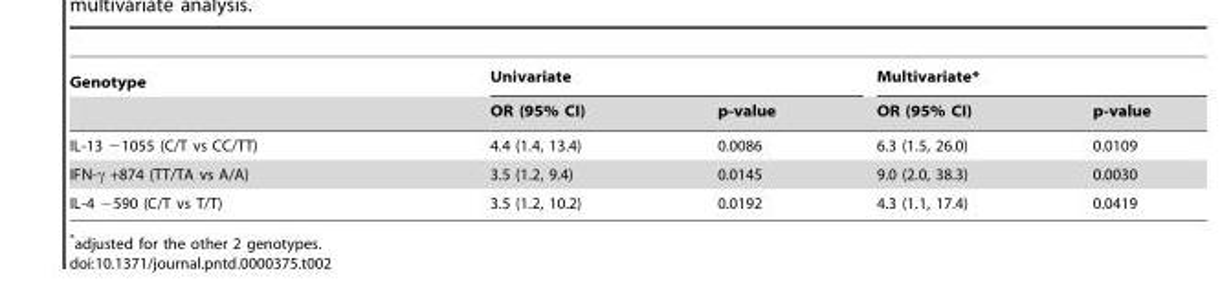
<table><thead><tr><td rowspan="2">Genotype</td><td colspan="2">Univariate</td><td colspan="2">Multivariate*</td></tr><tr><td>OR (95% CI)</td><td>p-value</td><td>OR (95% CI)</td><td>p-value</td></tr></thead><tbody><tr><td>IL-13 −1055 (C/T vs CC/TT)</td><td>4.4 (1.4, 13.4)</td><td>0.0086</td><td>6.3 (1.5, 26.0)</td><td>0.0109</td></tr><tr><td>IFN-γ +874 (TT/TA vs A/A)</td><td>3.5 (1.2, 9.4)</td><td>0.0145</td><td>9.0 (2.0, 38.3)</td><td>0.0030</td></tr><tr><td>IL-4 −590 (C/T vs T/T)</td><td>3.5 (1.2, 10.2)</td><td>0.0192</td><td>4.3 (1.1, 17.4)</td><td>0.0419</td></tr></tbody></table>